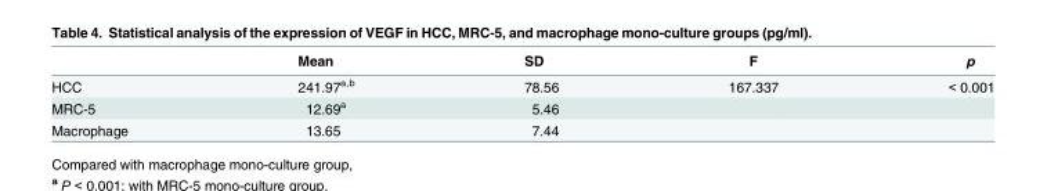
<table><thead><tr><td></td><td>Mean</td><td>SD</td><td>F</td><td>p</td></tr></thead><tbody><tr><td>HCC</td><td>241.97<sup>a,b</sup></td><td>78.56</td><td>167.337</td><td>&lt; 0.001</td></tr><tr><td>MRC-5</td><td>12.69<sup>a</sup></td><td>5.46</td><td></td><td></td></tr><tr><td>Macrophage</td><td>13.65</td><td>7.44</td><td></td><td></td></tr></tbody></table>